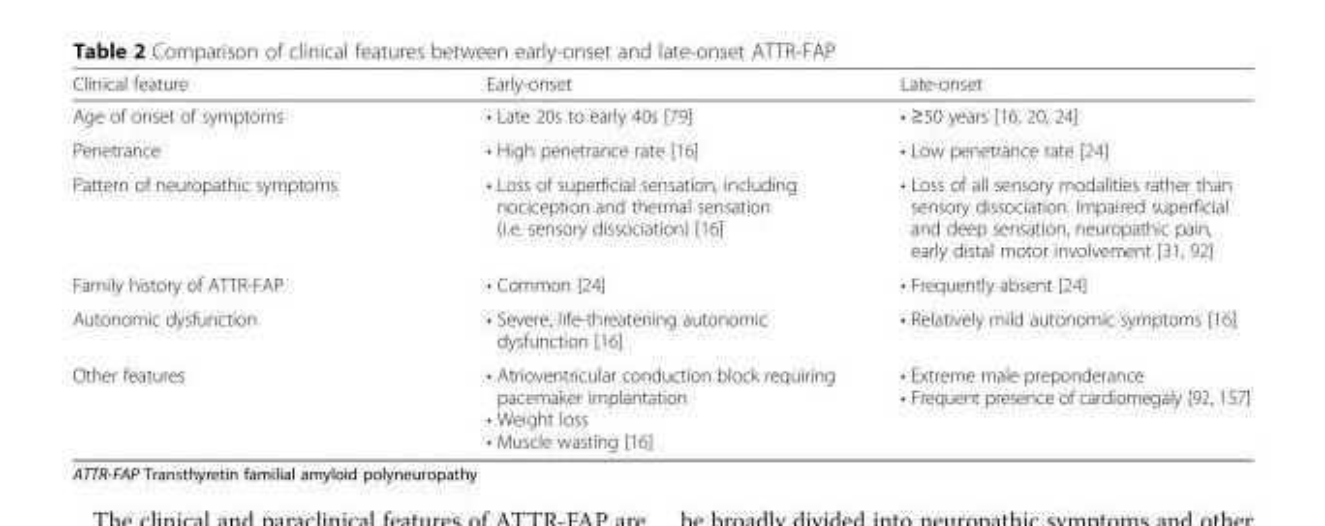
<table><thead><tr><td>Clinical feature</td><td>Early-onset</td><td>Late-onset</td></tr></thead><tbody><tr><td>Age of onset of symptoms</td><td>• Late 20s to early 40s [79]</td><td>• ≥50 years [16, 20, 24]</td></tr><tr><td>Penetrance</td><td>• High penetrance rate [16]</td><td>• Low penetrance rate [24]</td></tr><tr><td>Pattern of neuropathic symptoms</td><td>• Loss of superficial sensation, including nociception and thermal sensation (i.e. sensory dissociation) [16]</td><td>• Loss of all sensory modalities rather than sensory dissociation. Impaired superficial and deep sensation, neuropathic pain, early distal motor involvement [31, 92]</td></tr><tr><td>Family history of ATTR-FAP</td><td>• Common [24]</td><td>• Frequently absent [24]</td></tr><tr><td>Autonomic dysfunction</td><td>• Severe, life-threatening autonomic dysfunction [16]</td><td>• Relatively mild autonomic symptoms [16]</td></tr><tr><td>Other features</td><td>• Atrioventricular conduction block requiring pacemaker implantation • Weight loss • Muscle wasting [16]</td><td>• Extreme male preponderance • Frequent presence of cardiomegaly [92, 157]</td></tr></tbody></table>